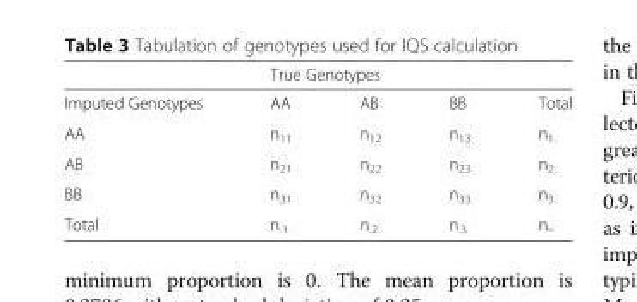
<table><thead><tr><td rowspan="2">Imputed Genotypes</td><td colspan="4">True Genotypes</td></tr><tr><td>AA</td><td>AB</td><td>BB</td><td>Total</td></tr></thead><tbody><tr><td>AA</td><td>n<sub>11</sub></td><td>n<sub>12</sub></td><td>n<sub>13</sub></td><td>n<sub>1.</sub></td></tr><tr><td>AB</td><td>n<sub>21</sub></td><td>n<sub>22</sub></td><td>n<sub>23</sub></td><td>n<sub>2.</sub></td></tr><tr><td>BB</td><td>n<sub>31</sub></td><td>n<sub>32</sub></td><td>n<sub>33</sub></td><td>n<sub>3.</sub></td></tr><tr><td>Total</td><td>n<sub>.1</sub></td><td>n<sub>.2</sub></td><td>n<sub>.3</sub></td><td>n..</td></tr></tbody></table>